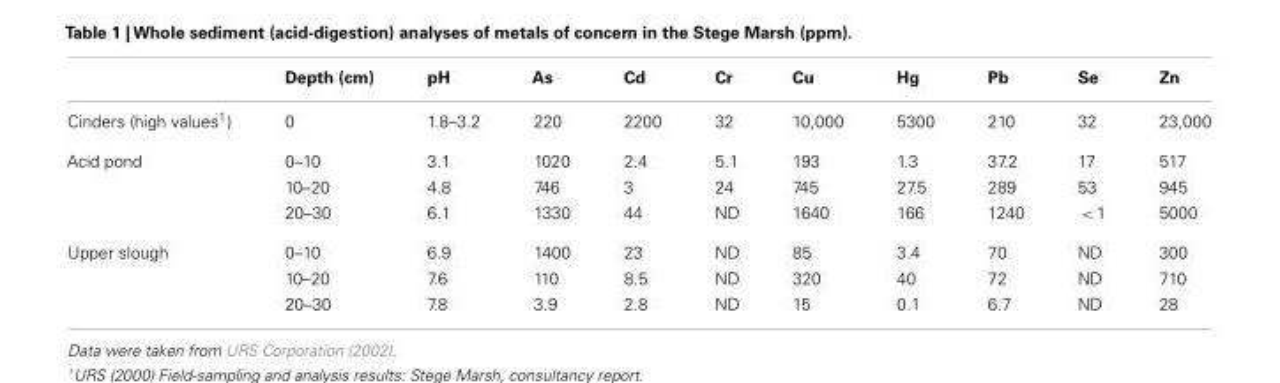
<table><thead><tr><td></td><td>Depth (cm)</td><td>pH</td><td>As</td><td>Cd</td><td>Cr</td><td>Cu</td><td>Hg</td><td>Pb</td><td>Se</td><td>Zn</td></tr></thead><tbody><tr><td>Cinders (high values<sup>1</sup>)</td><td>0</td><td>1.8–3.2</td><td>220</td><td>2200</td><td>32</td><td>10,000</td><td>5300</td><td>210</td><td>32</td><td>23,000</td></tr><tr><td rowspan="3">Acid pond</td><td>0–10</td><td>3.1</td><td>1020</td><td>2.4</td><td>5.1</td><td>193</td><td>1.3</td><td>37.2</td><td>17</td><td>517</td></tr><tr><td>10–20</td><td>4.8</td><td>746</td><td>3</td><td>24</td><td>745</td><td>27.5</td><td>289</td><td>53</td><td>945</td></tr><tr><td>20–30</td><td>6.1</td><td>1330</td><td>44</td><td>ND</td><td>1640</td><td>166</td><td>1240</td><td>&lt; 1</td><td>5000</td></tr><tr><td rowspan="3">Upper slough</td><td>0–10</td><td>6.9</td><td>1400</td><td>23</td><td>ND</td><td>85</td><td>3.4</td><td>70</td><td>ND</td><td>300</td></tr><tr><td>10–20</td><td>7.6</td><td>110</td><td>8.5</td><td>ND</td><td>320</td><td>40</td><td>72</td><td>ND</td><td>710</td></tr><tr><td>20–30</td><td>7.8</td><td>3.9</td><td>2.8</td><td>ND</td><td>15</td><td>0.1</td><td>6.7</td><td>ND</td><td>28</td></tr></tbody></table>